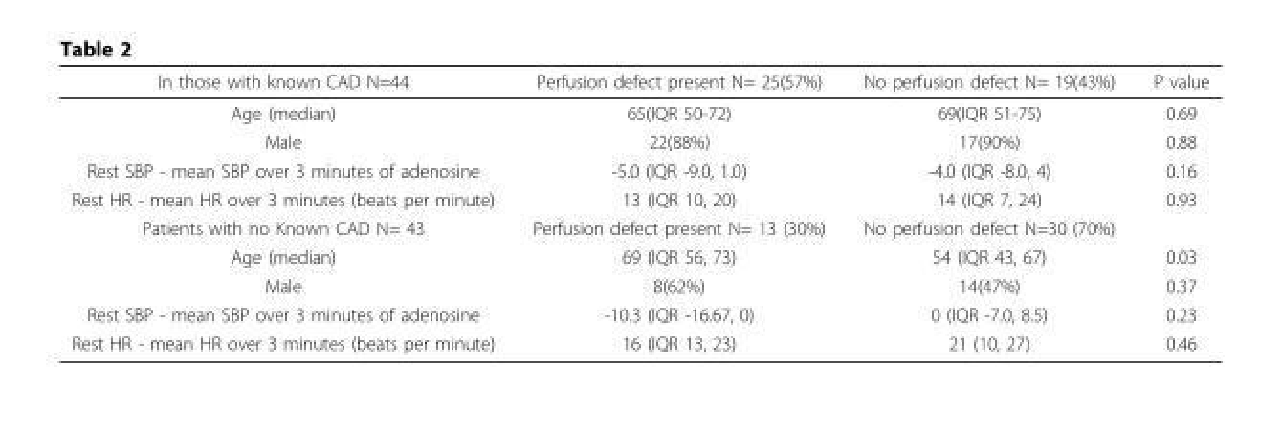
<table><thead><tr><td>In those with known CAD N=44</td><td>Perfusion defect present N= 25(57%)</td><td>No perfusion defect N= 19(43%)</td><td>P value</td></tr></thead><tbody><tr><td>Age (median)</td><td>65(IQR 50-72)</td><td>69(IQR 51-75)</td><td>0.69</td></tr><tr><td>Male</td><td>22(88%)</td><td>17(90%)</td><td>0.88</td></tr><tr><td>Rest SBP - mean SBP over 3 minutes of adenosine</td><td>-5.0 (IQR -9.0, 1.0)</td><td>-4.0 (IQR -8.0, 4)</td><td>0.16</td></tr><tr><td>Rest HR - mean HR over 3 minutes (beats per minute)</td><td>13 (IQR 10, 20)</td><td>14 (IQR 7, 24)</td><td>0.93</td></tr><tr><td>Patients with no Known CAD N= 43</td><td>Perfusion defect present N= 13 (30%)</td><td>No perfusion defect N=30 (70%)</td><td></td></tr><tr><td>Age (median)</td><td>69 (IQR 56, 73)</td><td>54 (IQR 43, 67)</td><td>0.03</td></tr><tr><td>Male</td><td>8(62%)</td><td>14(47%)</td><td>0.37</td></tr><tr><td>Rest SBP - mean SBP over 3 minutes of adenosine</td><td>-10.3 (IQR -16.67, 0)</td><td>0 (IQR -7.0, 8.5)</td><td>0.23</td></tr><tr><td>Rest HR - mean HR over 3 minutes (beats per minute)</td><td>16 (IQR 13, 23)</td><td>21 (10, 27)</td><td>0.46</td></tr></tbody></table>